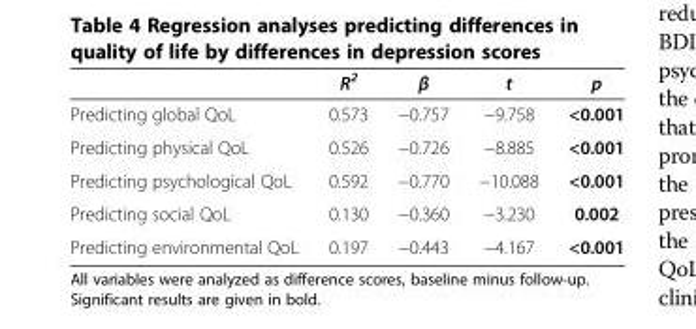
<table><thead><tr><td></td><td>R<sup>2</sup></td><td>β</td><td>t</td><td>p</td></tr></thead><tbody><tr><td>Predicting global QoL</td><td>0.573</td><td>−0.757</td><td>−9.758</td><td>&lt;0.001</td></tr><tr><td>Predicting physical QoL</td><td>0.526</td><td>−0.726</td><td>−8.885</td><td>&lt;0.001</td></tr><tr><td>Predicting psychological QoL</td><td>0.592</td><td>−0.770</td><td>−10.088</td><td>&lt;0.001</td></tr><tr><td>Predicting social QoL</td><td>0.130</td><td>−0.360</td><td>−3.230</td><td>0.002</td></tr><tr><td>Predicting environmental QoL</td><td>0.197</td><td>−0.443</td><td>−4.167</td><td>&lt;0.001</td></tr></tbody></table>